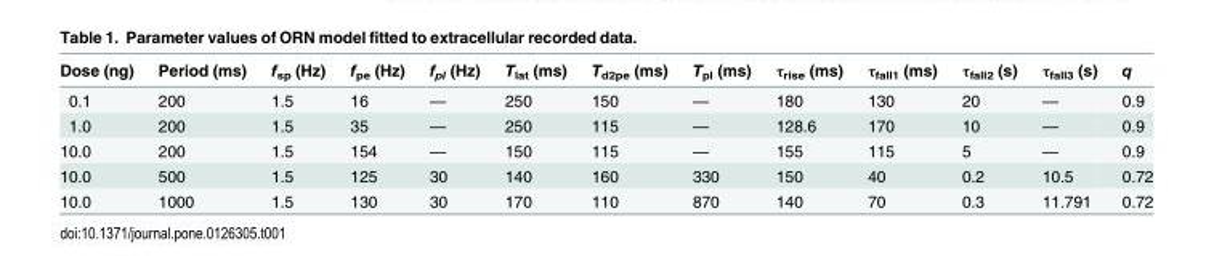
<table><thead><tr><td>Dose (ng)</td><td>Period (ms)</td><td>f<sub>sp</sub> (Hz)</td><td>f<sub>pe</sub> (Hz)</td><td>f<sub>pl</sub> (Hz)</td><td>T<sub>lat</sub> (ms)</td><td>T<sub>d2pe</sub> (ms)</td><td>T<sub>pl</sub> (ms)</td><td>τ<sub>rise</sub> (ms)</td><td>τ<sub>fall1</sub> (ms)</td><td>τ<sub>fall2</sub> (s)</td><td>τ<sub>fall3</sub> (s)</td><td>q</td></tr></thead><tbody><tr><td>0.1</td><td>200</td><td>1.5</td><td>16</td><td>—</td><td>250</td><td>150</td><td>—</td><td>180</td><td>130</td><td>20</td><td>—</td><td>0.9</td></tr><tr><td>1.0</td><td>200</td><td>1.5</td><td>35</td><td>—</td><td>250</td><td>115</td><td>—</td><td>128.6</td><td>170</td><td>10</td><td>—</td><td>0.9</td></tr><tr><td>10.0</td><td>200</td><td>1.5</td><td>154</td><td>—</td><td>150</td><td>115</td><td>—</td><td>155</td><td>115</td><td>5</td><td>—</td><td>0.9</td></tr><tr><td>10.0</td><td>500</td><td>1.5</td><td>125</td><td>30</td><td>140</td><td>160</td><td>330</td><td>150</td><td>40</td><td>0.2</td><td>10.5</td><td>0.72</td></tr><tr><td>10.0</td><td>1000</td><td>1.5</td><td>130</td><td>30</td><td>170</td><td>110</td><td>870</td><td>140</td><td>70</td><td>0.3</td><td>11.791</td><td>0.72</td></tr></tbody></table>